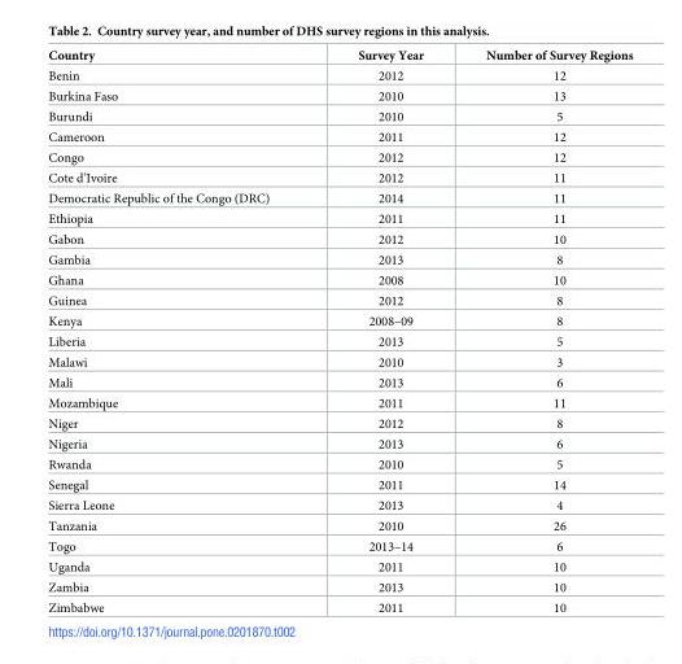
<table><thead><tr><td>Country</td><td>Survey Year</td><td>Number of Survey Regions</td></tr></thead><tbody><tr><td>Benin</td><td>2012</td><td>12</td></tr><tr><td>Burkina Faso</td><td>2010</td><td>13</td></tr><tr><td>Burundi</td><td>2010</td><td>5</td></tr><tr><td>Cameroon</td><td>2011</td><td>12</td></tr><tr><td>Congo</td><td>2012</td><td>12</td></tr><tr><td>Cote d’Ivoire</td><td>2012</td><td>11</td></tr><tr><td>Democratic Republic of the Congo (DRC)</td><td>2014</td><td>11</td></tr><tr><td>Ethiopia</td><td>2011</td><td>11</td></tr><tr><td>Gabon</td><td>2012</td><td>10</td></tr><tr><td>Gambia</td><td>2013</td><td>8</td></tr><tr><td>Ghana</td><td>2008</td><td>10</td></tr><tr><td>Guinea</td><td>2012</td><td>8</td></tr><tr><td>Kenya</td><td>2008–09</td><td>8</td></tr><tr><td>Liberia</td><td>2013</td><td>5</td></tr><tr><td>Malawi</td><td>2010</td><td>3</td></tr><tr><td>Mali</td><td>2013</td><td>6</td></tr><tr><td>Mozambique</td><td>2011</td><td>11</td></tr><tr><td>Niger</td><td>2012</td><td>8</td></tr><tr><td>Nigeria</td><td>2013</td><td>6</td></tr><tr><td>Rwanda</td><td>2010</td><td>5</td></tr><tr><td>Senegal</td><td>2011</td><td>14</td></tr><tr><td>Sierra Leone</td><td>2013</td><td>4</td></tr><tr><td>Tanzania</td><td>2010</td><td>26</td></tr><tr><td>Togo</td><td>2013–14</td><td>6</td></tr><tr><td>Uganda</td><td>2011</td><td>10</td></tr><tr><td>Zambia</td><td>2013</td><td>10</td></tr><tr><td>Zimbabwe</td><td>2011</td><td>10</td></tr></tbody></table>